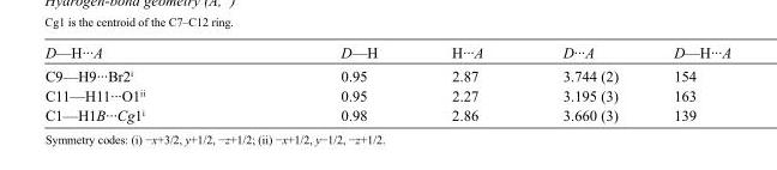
<table><tbody><tr><td>D—H···A</td><td>D—H</td><td>H···A</td><td>D···A</td><td>D—H···A</td></tr><tr><td>C9—H9···Br2<sup>i</sup></td><td>0.95</td><td>2.87</td><td>3.744 (2)</td><td>154</td></tr><tr><td>C11—H11···O1<sup>ii</sup></td><td>0.95</td><td>2.27</td><td>3.195 (3)</td><td>163</td></tr><tr><td>C1—H1B···Cg1<sup>i</sup></td><td>0.98</td><td>2.86</td><td>3.660 (3)</td><td>139</td></tr></tbody></table>